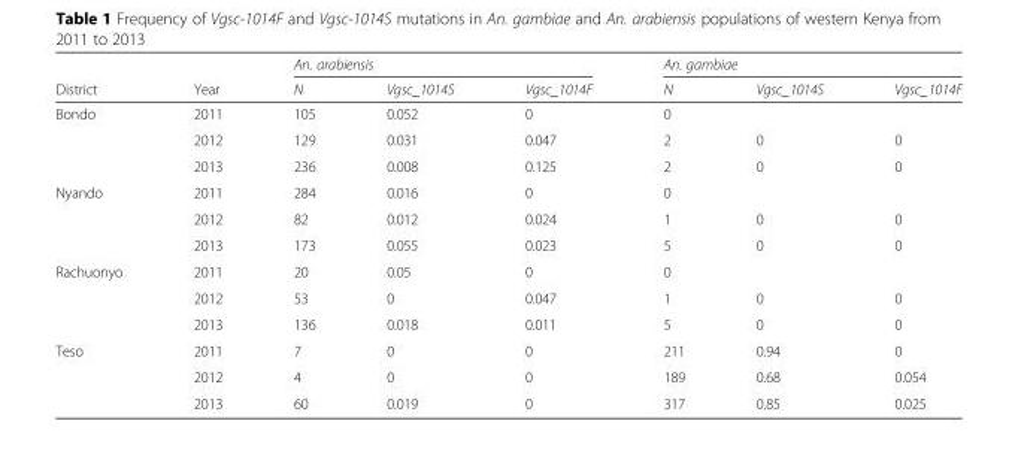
<table><thead><tr><td rowspan="2">District</td><td rowspan="2">Year</td><td colspan="3">An. arabiensis</td><td colspan="3">An. gambiae</td></tr><tr><td>N</td><td>Vgsc_1014S</td><td>Vgsc_1014F</td><td>N</td><td>Vgsc_1014S</td><td>Vgsc_1014F</td></tr></thead><tbody><tr><td rowspan="3">Bondo</td><td>2011</td><td>105</td><td>0.052</td><td>0</td><td>0</td><td></td><td></td></tr><tr><td>2012</td><td>129</td><td>0.031</td><td>0.047</td><td>2</td><td>0</td><td>0</td></tr><tr><td>2013</td><td>236</td><td>0.008</td><td>0.125</td><td>2</td><td>0</td><td>0</td></tr><tr><td rowspan="3">Nyando</td><td>2011</td><td>284</td><td>0.016</td><td>0</td><td>0</td><td></td><td></td></tr><tr><td>2012</td><td>82</td><td>0.012</td><td>0.024</td><td>1</td><td>0</td><td>0</td></tr><tr><td>2013</td><td>173</td><td>0.055</td><td>0.023</td><td>5</td><td>0</td><td>0</td></tr><tr><td rowspan="3">Rachuonyo</td><td>2011</td><td>20</td><td>0.05</td><td>0</td><td>0</td><td></td><td></td></tr><tr><td>2012</td><td>53</td><td>0</td><td>0.047</td><td>1</td><td>0</td><td>0</td></tr><tr><td>2013</td><td>136</td><td>0.018</td><td>0.011</td><td>5</td><td>0</td><td>0</td></tr><tr><td rowspan="3">Teso</td><td>2011</td><td>7</td><td>0</td><td>0</td><td>211</td><td>0.94</td><td>0</td></tr><tr><td>2012</td><td>4</td><td>0</td><td>0</td><td>189</td><td>0.68</td><td>0.054</td></tr><tr><td>2013</td><td>60</td><td>0.019</td><td>0</td><td>317</td><td>0.85</td><td>0.025</td></tr></tbody></table>